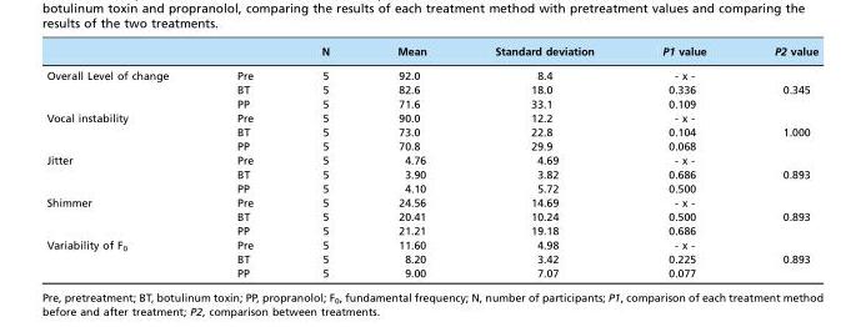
<table><thead><tr><td></td><td></td><td>N</td><td>Mean</td><td>Standard deviation</td><td>P1 value</td><td>P2 value</td></tr></thead><tbody><tr><td rowspan="3">Overall Level of change</td><td>Pre</td><td>5</td><td>92.0</td><td>8.4</td><td>- x -</td><td></td></tr><tr><td>BT</td><td>5</td><td>82.6</td><td>18.0</td><td>0.336</td><td rowspan="2">0.345</td></tr><tr><td>PP</td><td>5</td><td>71.6</td><td>33.1</td><td>0.109</td></tr><tr><td rowspan="3">Vocal instability</td><td>Pre</td><td>5</td><td>90.0</td><td>12.2</td><td>- x -</td><td></td></tr><tr><td>BT</td><td>5</td><td>73.0</td><td>22.8</td><td>0.104</td><td rowspan="2">1.000</td></tr><tr><td>PP</td><td>5</td><td>70.8</td><td>29.9</td><td>0.068</td></tr><tr><td rowspan="3">Jitter</td><td>Pre</td><td>5</td><td>4.76</td><td>4.69</td><td>- x -</td><td></td></tr><tr><td>BT</td><td>5</td><td>3.90</td><td>3.82</td><td>0.686</td><td rowspan="2">0.893</td></tr><tr><td>PP</td><td>5</td><td>4.10</td><td>5.72</td><td>0.500</td></tr><tr><td rowspan="3">Shimmer</td><td>Pre</td><td>5</td><td>24.56</td><td>14.69</td><td>- x -</td><td></td></tr><tr><td>BT</td><td>5</td><td>20.41</td><td>10.24</td><td>0.500</td><td rowspan="2">0.893</td></tr><tr><td>PP</td><td>5</td><td>21.21</td><td>19.18</td><td>0.686</td></tr><tr><td rowspan="3">Variability of F<sub>0</sub></td><td>Pre</td><td>5</td><td>11.60</td><td>4.98</td><td>- x -</td><td></td></tr><tr><td>BT</td><td>5</td><td>8.20</td><td>3.42</td><td>0.225</td><td rowspan="2">0.893</td></tr><tr><td>PP</td><td>5</td><td>9.00</td><td>7.07</td><td>0.077</td></tr></tbody></table>